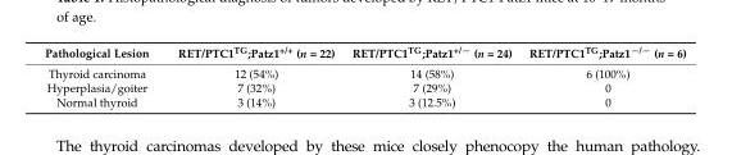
<table><thead><tr><td>Pathological Lesion</td><td>RET/PTC1<sup>TG</sup>;Patz1<sup>+/+</sup> (n = 22)</td><td>RET/PTC1<sup>TG</sup>;Patz1<sup>+/−</sup> (n = 24)</td><td>RET/PTC1<sup>TG</sup>;Patz1<sup>−/−</sup> (n = 6)</td></tr></thead><tbody><tr><td>Thyroid carcinoma</td><td>12 (54%)</td><td>14 (58%)</td><td>6 (100%)</td></tr><tr><td>Hyperplasia/goiter</td><td>7 (32%)</td><td>7 (29%)</td><td>0</td></tr><tr><td>Normal thyroid</td><td>3 (14%)</td><td>3 (12.5%)</td><td>0</td></tr></tbody></table>